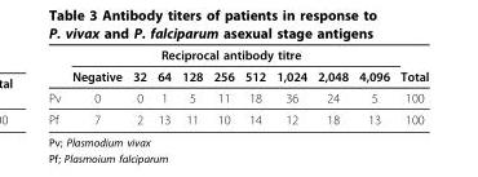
<table><thead><tr><td rowspan="2"></td><td colspan="9">Reciprocal antibody titre</td><td rowspan="2">Total</td></tr><tr><td>Negative</td><td>32</td><td>64</td><td>128</td><td>256</td><td>512</td><td>1,024</td><td>2,048</td><td>4,096</td></tr></thead><tbody><tr><td>Pv</td><td>0</td><td>0</td><td>1</td><td>5</td><td>11</td><td>18</td><td>36</td><td>24</td><td>5</td><td>100</td></tr><tr><td>Pf</td><td>7</td><td>2</td><td>13</td><td>11</td><td>10</td><td>14</td><td>12</td><td>18</td><td>13</td><td>100</td></tr></tbody></table>